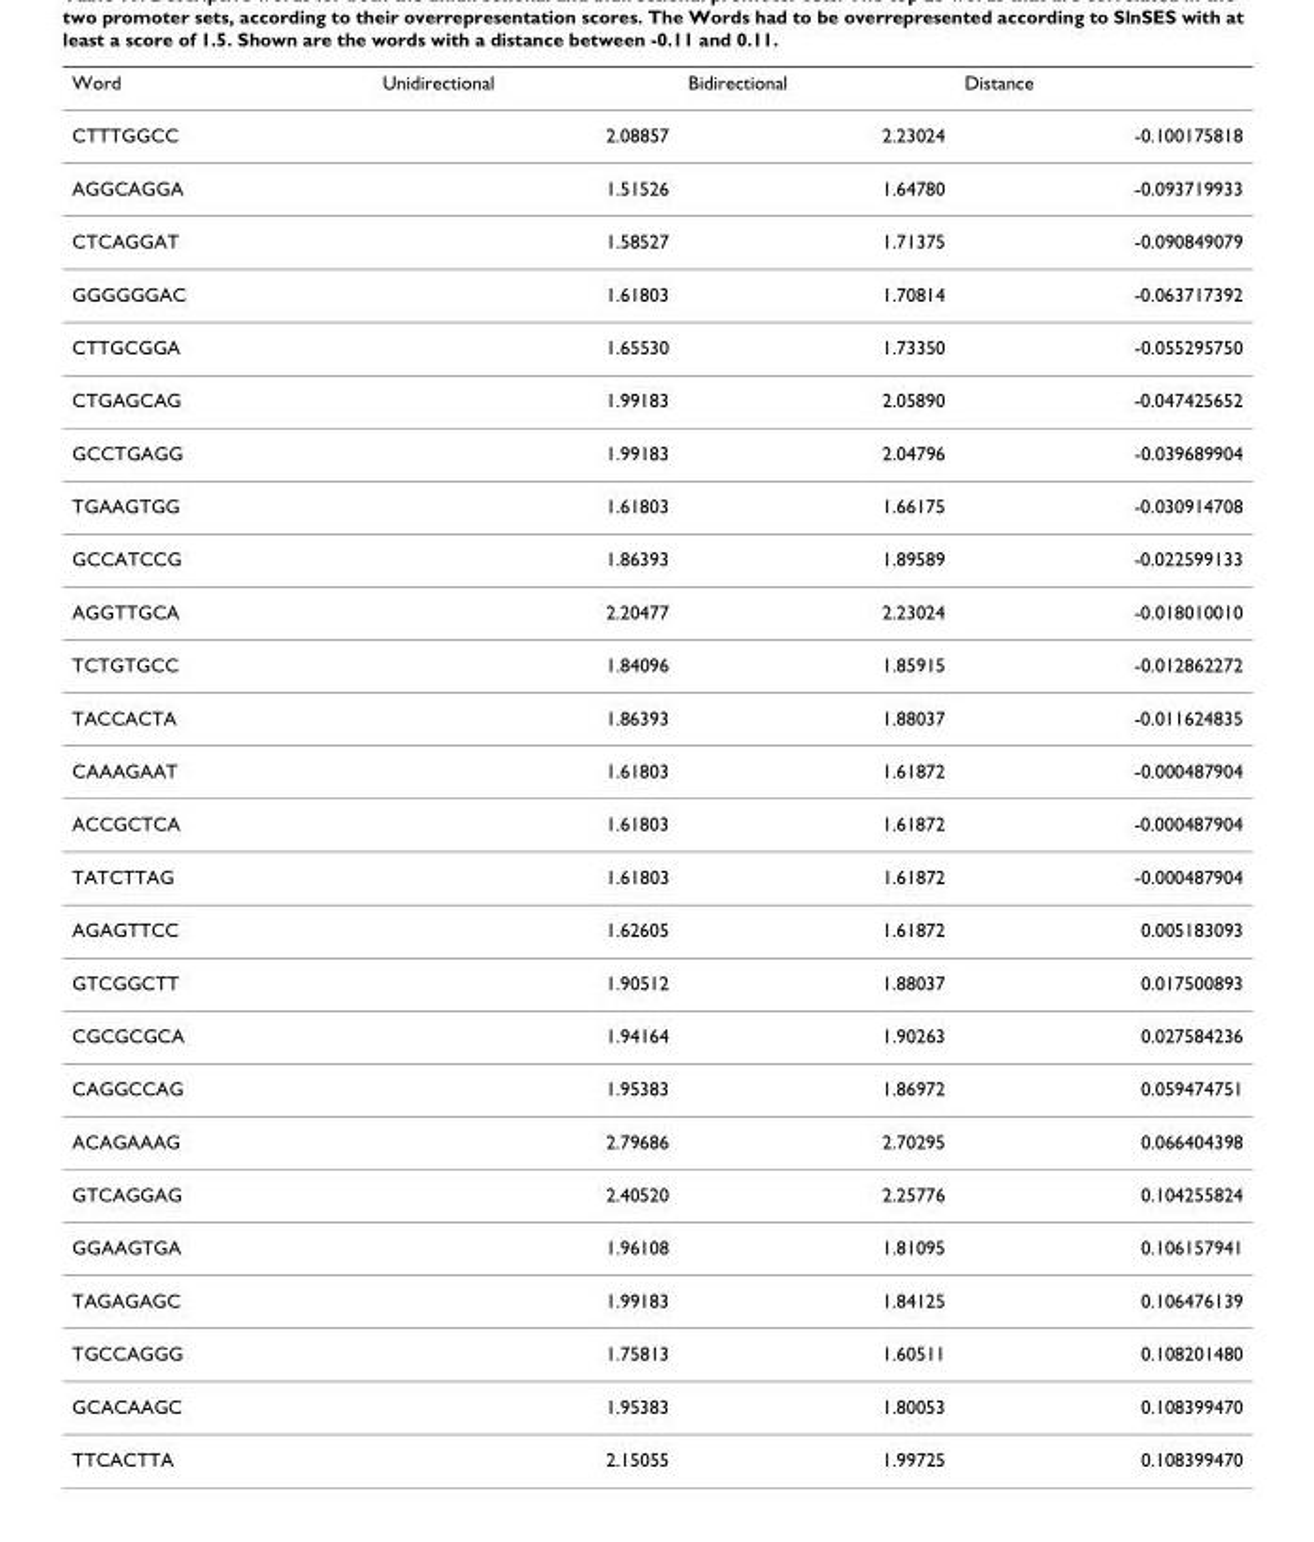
<table><thead><tr><td>Word</td><td>Unidirectional</td><td>Bidirectional</td><td>Distance</td></tr></thead><tbody><tr><td>CTTTGGCC</td><td>2.08857</td><td>2.23024</td><td>-0.100175818</td></tr><tr><td>AGGCAGGA</td><td>1.51526</td><td>1.64780</td><td>-0.093719933</td></tr><tr><td>CTCAGGAT</td><td>1.58527</td><td>1.71375</td><td>-0.090849079</td></tr><tr><td>GGGGGGAC</td><td>1.61803</td><td>1.70814</td><td>-0.063717392</td></tr><tr><td>CTTGCGGA</td><td>1.65530</td><td>1.73350</td><td>-0.055295750</td></tr><tr><td>CTGAGCAG</td><td>1.99183</td><td>2.05890</td><td>-0.047425652</td></tr><tr><td>GCCTGAGG</td><td>1.99183</td><td>2.04796</td><td>-0.039689904</td></tr><tr><td>TGAAGTGG</td><td>1.61803</td><td>1.66175</td><td>-0.030914708</td></tr><tr><td>GCCATCCG</td><td>1.86393</td><td>1.89589</td><td>-0.022599133</td></tr><tr><td>AGGTTGCA</td><td>2.20477</td><td>2.23024</td><td>-0.018010010</td></tr><tr><td>TCTGTGCC</td><td>1.84096</td><td>1.85915</td><td>-0.012862272</td></tr><tr><td>TACCACTA</td><td>1.86393</td><td>1.88037</td><td>-0.011624835</td></tr><tr><td>CAAAGAAT</td><td>1.61803</td><td>1.61872</td><td>-0.000487904</td></tr><tr><td>ACCGCTCA</td><td>1.61803</td><td>1.61872</td><td>-0.000487904</td></tr><tr><td>TATCTTAG</td><td>1.61803</td><td>1.61872</td><td>-0.000487904</td></tr><tr><td>AGAGTTCC</td><td>1.62605</td><td>1.61872</td><td>0.005183093</td></tr><tr><td>GTCGGCTT</td><td>1.90512</td><td>1.88037</td><td>0.017500893</td></tr><tr><td>CGCGCGCA</td><td>1.94164</td><td>1.90263</td><td>0.027584236</td></tr><tr><td>CAGGCCAG</td><td>1.95383</td><td>1.86972</td><td>0.059474751</td></tr><tr><td>ACAGAAAG</td><td>2.79686</td><td>2.70295</td><td>0.066404398</td></tr><tr><td>GTCAGGAG</td><td>2.40520</td><td>2.25776</td><td>0.104255824</td></tr><tr><td>GGAAGTGA</td><td>1.96108</td><td>1.81095</td><td>0.106157941</td></tr><tr><td>TAGAGAGC</td><td>1.99183</td><td>1.84125</td><td>0.106476139</td></tr><tr><td>TGCCAGGG</td><td>1.75813</td><td>1.60511</td><td>0.108201480</td></tr><tr><td>GCACAAGC</td><td>1.95383</td><td>1.80053</td><td>0.108399470</td></tr><tr><td>TTCACTTA</td><td>2.15055</td><td>1.99725</td><td>0.108399470</td></tr></tbody></table>